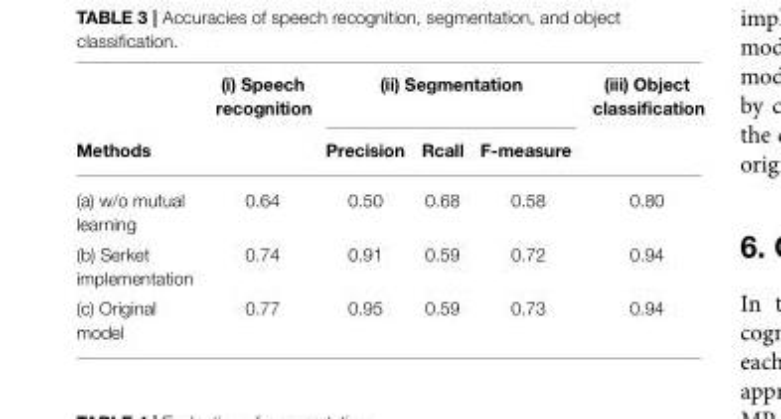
<table><thead><tr><td rowspan="2">Methods</td><td rowspan="2">(i) Speech recognition</td><td colspan="3">(ii) Segmentation</td><td rowspan="2">(iii) Object classification</td></tr><tr><td>Precision</td><td>Rcall</td><td>F-measure</td></tr></thead><tbody><tr><td>(a) w/o mutual learning</td><td>0.64</td><td>0.50</td><td>0.68</td><td>0.58</td><td>0.80</td></tr><tr><td>(b) Serket implementation</td><td>0.74</td><td>0.91</td><td>0.59</td><td>0.72</td><td>0.94</td></tr><tr><td>(c) Original model</td><td>0.77</td><td>0.95</td><td>0.59</td><td>0.73</td><td>0.94</td></tr></tbody></table>